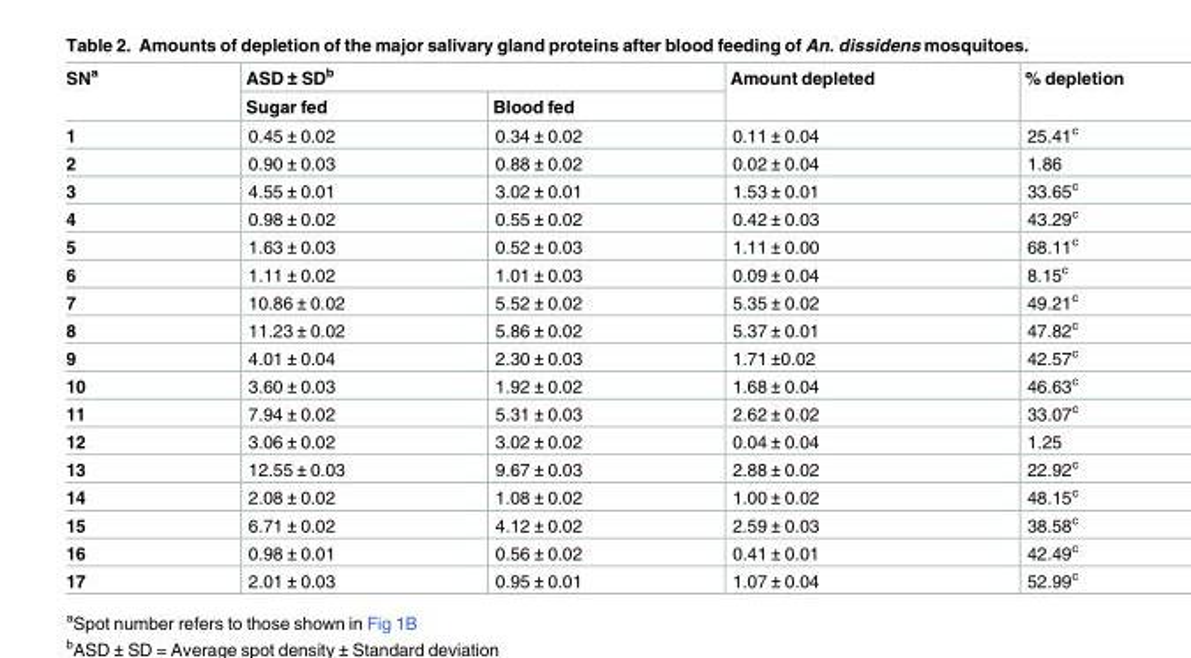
<table><thead><tr><td rowspan="2">SN<sup>a</sup></td><td colspan="2">ASD ± SD<sup>b</sup></td><td rowspan="2">Amount depleted</td><td rowspan="2">% depletion</td></tr><tr><td>Sugar fed</td><td>Blood fed</td></tr></thead><tbody><tr><td>1</td><td>0.45 ± 0.02</td><td>0.34 ± 0.02</td><td>0.11 ± 0.04</td><td>25.41<sup>c</sup></td></tr><tr><td>2</td><td>0.90 ± 0.03</td><td>0.88 ± 0.02</td><td>0.02 ± 0.04</td><td>1.86</td></tr><tr><td>3</td><td>4.55 ± 0.01</td><td>3.02 ± 0.01</td><td>1.53 ± 0.01</td><td>33.65<sup>c</sup></td></tr><tr><td>4</td><td>0.98 ± 0.02</td><td>0.55 ± 0.02</td><td>0.42 ± 0.03</td><td>43.29<sup>c</sup></td></tr><tr><td>5</td><td>1.63 ± 0.03</td><td>0.52 ± 0.03</td><td>1.11 ± 0.00</td><td>68.11<sup>c</sup></td></tr><tr><td>6</td><td>1.11 ± 0.02</td><td>1.01 ± 0.03</td><td>0.09 ± 0.04</td><td>8.15<sup>c</sup></td></tr><tr><td>7</td><td>10.86 ± 0.02</td><td>5.52 ± 0.02</td><td>5.35 ± 0.02</td><td>49.21<sup>c</sup></td></tr><tr><td>8</td><td>11.23 ± 0.02</td><td>5.86 ± 0.02</td><td>5.37 ± 0.01</td><td>47.82<sup>c</sup></td></tr><tr><td>9</td><td>4.01 ± 0.04</td><td>2.30 ± 0.03</td><td>1.71 ±0.02</td><td>42.57<sup>c</sup></td></tr><tr><td>10</td><td>3.60 ± 0.03</td><td>1.92 ± 0.02</td><td>1.68 ± 0.04</td><td>46.63<sup>c</sup></td></tr><tr><td>11</td><td>7.94 ± 0.02</td><td>5.31 ± 0.03</td><td>2.62 ± 0.02</td><td>33.07<sup>c</sup></td></tr><tr><td>12</td><td>3.06 ± 0.02</td><td>3.02 ± 0.02</td><td>0.04 ± 0.04</td><td>1.25</td></tr><tr><td>13</td><td>12.55 ± 0.03</td><td>9.67 ± 0.03</td><td>2.88 ± 0.02</td><td>22.92<sup>c</sup></td></tr><tr><td>14</td><td>2.08 ± 0.02</td><td>1.08 ± 0.02</td><td>1.00 ± 0.02</td><td>48.15<sup>c</sup></td></tr><tr><td>15</td><td>6.71 ± 0.02</td><td>4.12 ± 0.02</td><td>2.59 ± 0.03</td><td>38.58<sup>c</sup></td></tr><tr><td>16</td><td>0.98 ± 0.01</td><td>0.56 ± 0.02</td><td>0.41 ± 0.01</td><td>42.49<sup>c</sup></td></tr><tr><td>17</td><td>2.01 ± 0.03</td><td>0.95 ± 0.01</td><td>1.07 ± 0.04</td><td>52.99<sup>c</sup></td></tr></tbody></table>